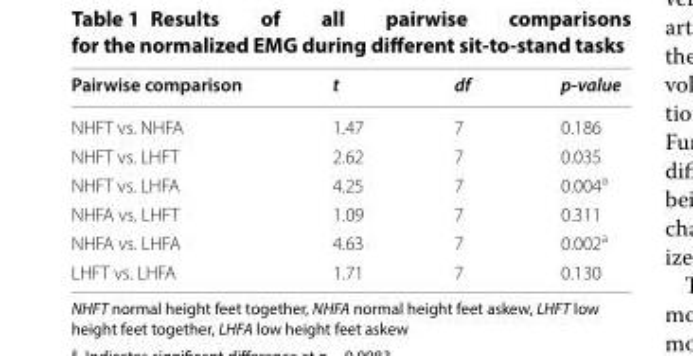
<table><thead><tr><td>Pairwise comparison</td><td>t</td><td>df</td><td>p-value</td></tr></thead><tbody><tr><td>NHFT vs. NHFA</td><td>1.47</td><td>7</td><td>0.186</td></tr><tr><td>NHFT vs. LHFT</td><td>2.62</td><td>7</td><td>0.035</td></tr><tr><td>NHFT vs. LHFA</td><td>4.25</td><td>7</td><td>0.004<sup>a</sup></td></tr><tr><td>NHFA vs. LHFT</td><td>1.09</td><td>7</td><td>0.311</td></tr><tr><td>NHFA vs. LHFA</td><td>4.63</td><td>7</td><td>0.002<sup>a</sup></td></tr><tr><td>LHFT vs. LHFA</td><td>1.71</td><td>7</td><td>0.130</td></tr></tbody></table>